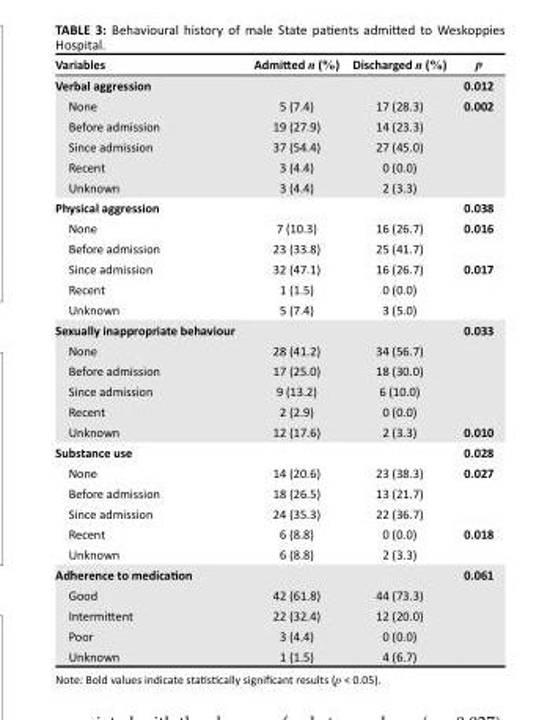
<table><thead><tr><td>Variables</td><td>Admitted n (%)</td><td>Discharged n (%)</td><td>p</td></tr></thead><tbody><tr><td>Verbal aggression</td><td></td><td></td><td>0.012</td></tr><tr><td>None</td><td>5 (7.4)</td><td>17 (28.3)</td><td>0.002</td></tr><tr><td>Before admission</td><td>19 (27.9)</td><td>14 (23.3)</td><td></td></tr><tr><td>Since admission</td><td>37 (54.4)</td><td>27 (45.0)</td><td></td></tr><tr><td>Recent</td><td>3 (4.4)</td><td>0 (0.0)</td><td></td></tr><tr><td>Unknown</td><td>3 (4.4)</td><td>2 (3.3)</td><td></td></tr><tr><td>Physical aggression</td><td></td><td></td><td>0.038</td></tr><tr><td>None</td><td>7 (10.3)</td><td>16 (26.7)</td><td>0.016</td></tr><tr><td>Before admission</td><td>23 (33.8)</td><td>25 (41.7)</td><td></td></tr><tr><td>Since admission</td><td>32 (47.1)</td><td>16 (26.7)</td><td>0.017</td></tr><tr><td>Recent</td><td>1 (1.5)</td><td>0 (0.0)</td><td></td></tr><tr><td>Unknown</td><td>5 (7.4)</td><td>3 (5.0)</td><td></td></tr><tr><td>Sexually inappropriate behaviour</td><td></td><td></td><td>0.033</td></tr><tr><td>None</td><td>28 (41.2)</td><td>34 (56.7)</td><td></td></tr><tr><td>Before admission</td><td>17 (25.0)</td><td>18 (30.0)</td><td></td></tr><tr><td>Since admission</td><td>9 (13.2)</td><td>6 (10.0)</td><td></td></tr><tr><td>Recent</td><td>2 (2.9)</td><td>0 (0.0)</td><td></td></tr><tr><td>Unknown</td><td>12 (17.6)</td><td>2 (3.3)</td><td>0.010</td></tr><tr><td>Substance use</td><td></td><td></td><td>0.028</td></tr><tr><td>None</td><td>14 (20.6)</td><td>23 (38.3)</td><td>0.027</td></tr><tr><td>Before admission</td><td>18 (26.5)</td><td>13 (21.7)</td><td></td></tr><tr><td>Since admission</td><td>24 (35.3)</td><td>22 (36.7)</td><td></td></tr><tr><td>Recent</td><td>6 (8.8)</td><td>0 (0.0)</td><td>0.018</td></tr><tr><td>Unknown</td><td>6 (8.8)</td><td>2 (3.3)</td><td></td></tr><tr><td>Adherence to medication</td><td></td><td></td><td>0.061</td></tr><tr><td>Good</td><td>42 (61.8)</td><td>44 (73.3)</td><td></td></tr><tr><td>Intermittent</td><td>22 (32.4)</td><td>12 (20.0)</td><td></td></tr><tr><td>Poor</td><td>3 (4.4)</td><td>0 (0.0)</td><td></td></tr><tr><td>Unknown</td><td>1 (1.5)</td><td>4 (6.7)</td><td></td></tr></tbody></table>